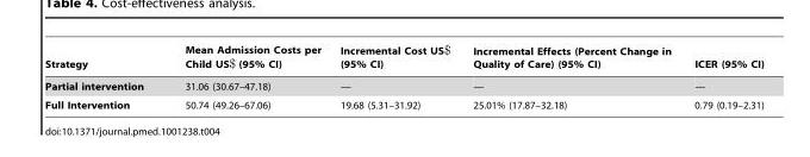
<table><thead><tr><td>Strategy</td><td>Mean Admission Costs per Child US$ (95% CI)</td><td>Incremental Cost US$ (95% CI)</td><td>Incremental Effects (Percent Change in Quality of Care) (95% CI)</td><td>ICER (95% CI)</td></tr></thead><tbody><tr><td>Partial intervention</td><td>31.06 (30.67–47.18)</td><td>—</td><td>—</td><td>—</td></tr><tr><td>Full Intervention</td><td>50.74 (49.26–67.06)</td><td>19.68 (5.31–31.92)</td><td>25.01% (17.87–32.18)</td><td>0.79 (0.19–2.31)</td></tr></tbody></table>